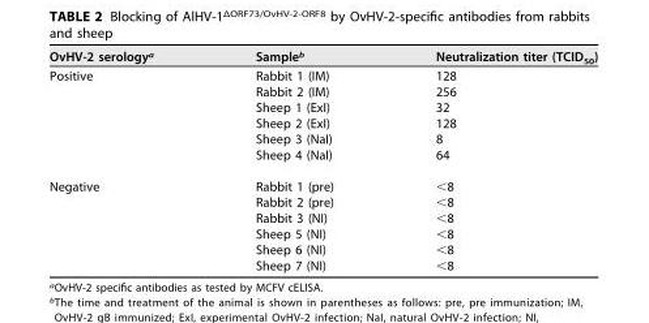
<table><thead><tr><td>OvHV-2 serology<sup>a</sup></td><td>Sample<sup>b</sup></td><td>Neutralization titer (TCID<sub>50</sub>)</td></tr></thead><tbody><tr><td rowspan="6">Positive</td><td>Rabbit 1 (IM)</td><td>128</td></tr><tr><td>Rabbit 2 (IM)</td><td>256</td></tr><tr><td>Sheep 1 (ExI)</td><td>32</td></tr><tr><td>Sheep 2 (ExI)</td><td>128</td></tr><tr><td>Sheep 3 (NaI)</td><td>8</td></tr><tr><td>Sheep 4 (NaI)</td><td>64</td></tr><tr><td rowspan="6">Negative</td><td>Rabbit 1 (pre)</td><td>&lt;8</td></tr><tr><td>Rabbit 2 (pre)</td><td>&lt;8</td></tr><tr><td>Rabbit 3 (NI)</td><td>&lt;8</td></tr><tr><td>Sheep 5 (NI)</td><td>&lt;8</td></tr><tr><td>Sheep 6 (NI)</td><td>&lt;8</td></tr><tr><td>Sheep 7 (NI)</td><td>&lt;8</td></tr></tbody></table>